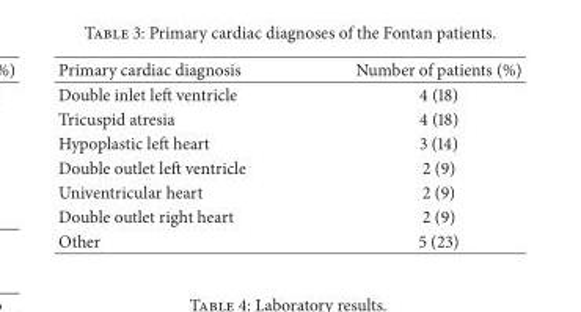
<table><thead><tr><td>Primary cardiac diagnosis</td><td>Number of patients (%)</td></tr></thead><tbody><tr><td>Double inlet left ventricle</td><td>4 (18)</td></tr><tr><td>Tricuspid atresia</td><td>4 (18)</td></tr><tr><td>Hypoplastic left heart</td><td>3 (14)</td></tr><tr><td>Double outlet left ventricle</td><td>2 (9)</td></tr><tr><td>Univentricular heart</td><td>2 (9)</td></tr><tr><td>Double outlet right heart</td><td>2 (9)</td></tr><tr><td>Other</td><td>5 (23)</td></tr></tbody></table>